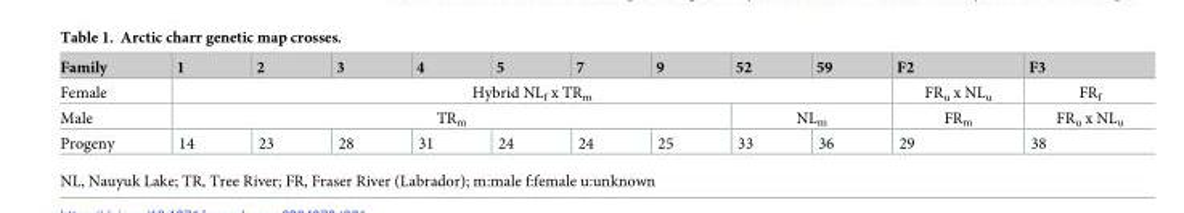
<table><thead><tr><td>Family</td><td>1</td><td>2</td><td>3</td><td>4</td><td>5</td><td>7</td><td>9</td><td>52</td><td>59</td><td>F2</td><td>F3</td></tr></thead><tbody><tr><td>Female</td><td colspan="9">Hybrid NLf x TRm</td><td>FRu x NLu</td><td>FRf</td></tr><tr><td>Male</td><td colspan="7">TRm</td><td colspan="2">NLm</td><td>FRm</td><td>FRu x NLu</td></tr><tr><td>Progeny</td><td>14</td><td>23</td><td>28</td><td>31</td><td>24</td><td>24</td><td>25</td><td>33</td><td>36</td><td>29</td><td>38</td></tr></tbody></table>